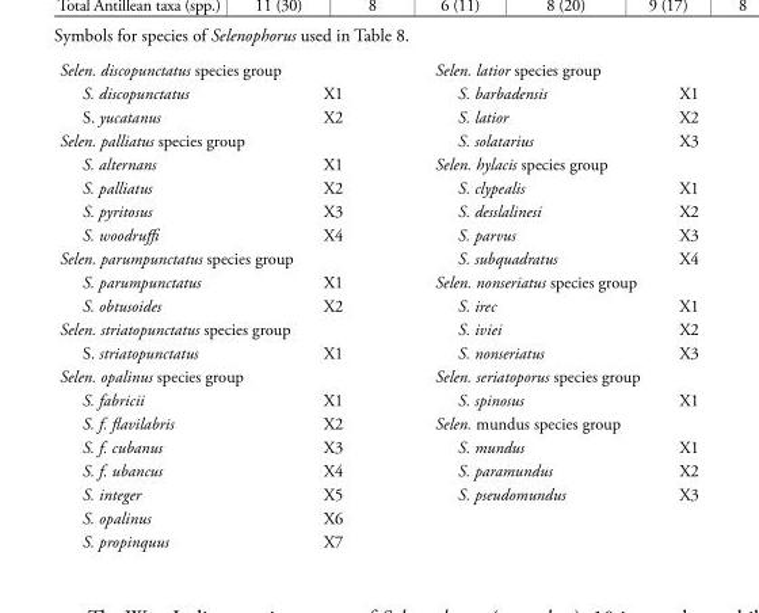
<table><tbody><tr><td>Selen. discopunctatus species group</td><td></td><td>Selen. latior species group</td><td></td></tr><tr><td>S. discopunctatus</td><td>X1</td><td>S. barbadensis</td><td>X1</td></tr><tr><td>S. yucatanus</td><td>X2</td><td>S. latior</td><td>X2</td></tr><tr><td>Selen. palliatus species group</td><td></td><td>S. solatarius</td><td>X3</td></tr><tr><td>S. alternans</td><td>X1</td><td>Selen. hylacis species group</td><td></td></tr><tr><td>S. palliatus</td><td>X2</td><td>S. clypealis</td><td>X1</td></tr><tr><td>S. pyritosus</td><td>X3</td><td>S. desslalinesi</td><td>X2</td></tr><tr><td>S. woodruffi</td><td>X4</td><td>S. parvus</td><td>X3</td></tr><tr><td>Selen. parumpunctatus species group</td><td></td><td>S. subquadratus</td><td>X4</td></tr><tr><td>S. parumpunctatus</td><td>X1</td><td>Selen. nonseriatus species group</td><td></td></tr><tr><td>S. obtusoides</td><td>X2</td><td>S. irec</td><td>X1</td></tr><tr><td>Selen. striatopunctatus species group</td><td></td><td>S. iviei</td><td>X2</td></tr><tr><td>S. striatopunctatus</td><td>X1</td><td>S. nonseriatus</td><td>X3</td></tr><tr><td>Selen. opalinus species group</td><td></td><td>Selen. seriatoporus species group</td><td></td></tr><tr><td>S. fabricii</td><td>X1</td><td>S. spinosus</td><td>X1</td></tr><tr><td>S. f. flavilabris</td><td>X2</td><td>Selen. mundus species group</td><td></td></tr><tr><td>S. f. cubanus</td><td>X3</td><td>S. mundus</td><td>X1</td></tr><tr><td>S. f. ubancus</td><td>X4</td><td>S. paramundus</td><td>X2</td></tr><tr><td>S. integer</td><td>X5</td><td>S. pseudomundus</td><td>X3</td></tr><tr><td>S. opalinus</td><td>X6</td><td></td><td></td></tr><tr><td>S. propinquus</td><td>X7</td><td></td><td></td></tr></tbody></table>